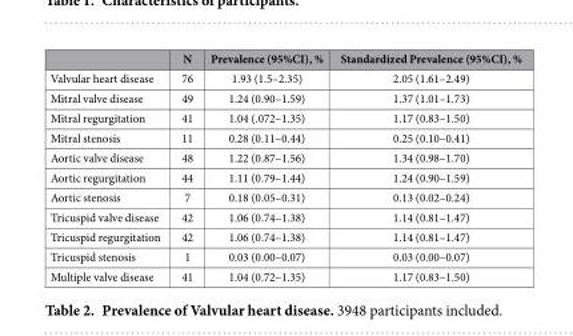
<table><thead><tr><td></td><td>N</td><td>Prevalence (95%CI), %</td><td>Standardized Prevalence (95%CI), %</td></tr></thead><tbody><tr><td>Valvular heart disease</td><td>76</td><td>1.93 (1.5–2.35)</td><td>2.05 (1.61–2.49)</td></tr><tr><td>Mitral valve disease</td><td>49</td><td>1.24 (0.90–1.59)</td><td>1.37 (1.01–1.73)</td></tr><tr><td>Mitral regurgitation</td><td>41</td><td>1.04 (.072–1.35)</td><td>1.17 (0.83–1.50)</td></tr><tr><td>Mitral stenosis</td><td>11</td><td>0.28 (0.11–0.44)</td><td>0.25 (0.10–0.41)</td></tr><tr><td>Aortic valve disease</td><td>48</td><td>1.22 (0.87–1.56)</td><td>1.34 (0.98–1.70)</td></tr><tr><td>Aortic regurgitation</td><td>44</td><td>1.11 (0.79–1.44)</td><td>1.24 (0.90–1.59)</td></tr><tr><td>Aortic stenosis</td><td>7</td><td>0.18 (0.05–0.31)</td><td>0.13 (0.02–0.24)</td></tr><tr><td>Tricuspid valve disease</td><td>42</td><td>1.06 (0.74–1.38)</td><td>1.14 (0.81–1.47)</td></tr><tr><td>Tricuspid regurgitation</td><td>42</td><td>1.06 (0.74–1.38)</td><td>1.14 (0.81–1.47)</td></tr><tr><td>Tricuspid stenosis</td><td>1</td><td>0.03 (0.00–0.07)</td><td>0.03 (0.00–0.07)</td></tr><tr><td>Multiple valve disease</td><td>41</td><td>1.04 (0.72–1.35)</td><td>1.17 (0.83–1.50)</td></tr></tbody></table>